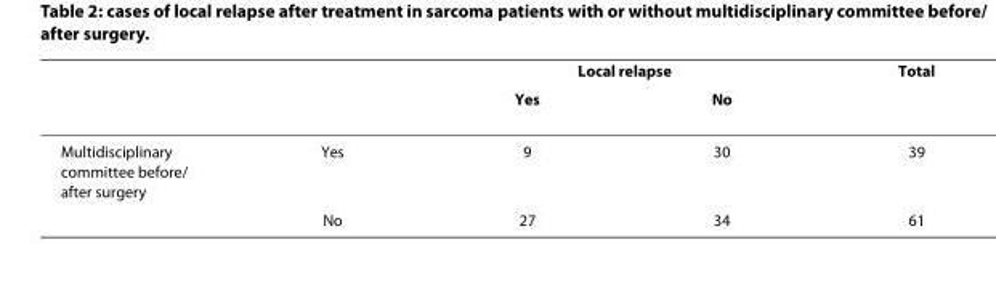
<table><thead><tr><td rowspan="2"></td><td rowspan="2"></td><td colspan="2">Local relapse</td><td rowspan="2">Total</td></tr><tr><td>Yes</td><td>No</td></tr></thead><tbody><tr><td rowspan="2">Multidisciplinary committee before/ after surgery</td><td>Yes</td><td>9</td><td>30</td><td>39</td></tr><tr><td>No</td><td>27</td><td>34</td><td>61</td></tr></tbody></table>